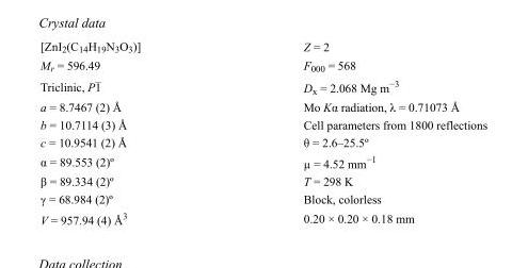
<table><tbody><tr><td>[ZnI<sub>2</sub>(C<sub>14</sub>H<sub>19</sub>N<sub>3</sub>O<sub>3</sub>)]</td><td>Z = 2</td></tr><tr><td>M<sub>r</sub> = 596.49</td><td>F000 = 568</td></tr><tr><td>Triclinic, P1</td><td>D<sub>x</sub> = 2.068 Mg m<sup>−3</sup></td></tr><tr><td>a = 8.7467 (2) Å</td><td>Mo Kα radiation, λ = 0.71073 Å</td></tr><tr><td>b = 10.7114 (3) Å</td><td>Cell parameters from 1800 reflections</td></tr><tr><td>c = 10.9541 (2) Å</td><td>θ = 2.6–25.5º</td></tr><tr><td>α = 89.553 (2)º</td><td>µ = 4.52 mm<sup>−1</sup></td></tr><tr><td>β = 89.334 (2)º</td><td>T = 298 K</td></tr><tr><td>γ = 68.984 (2)º</td><td>Block, colorless</td></tr><tr><td>V = 957.94 (4) Å<sup>3</sup></td><td>0.20 × 0.20 × 0.18 mm</td></tr></tbody></table>